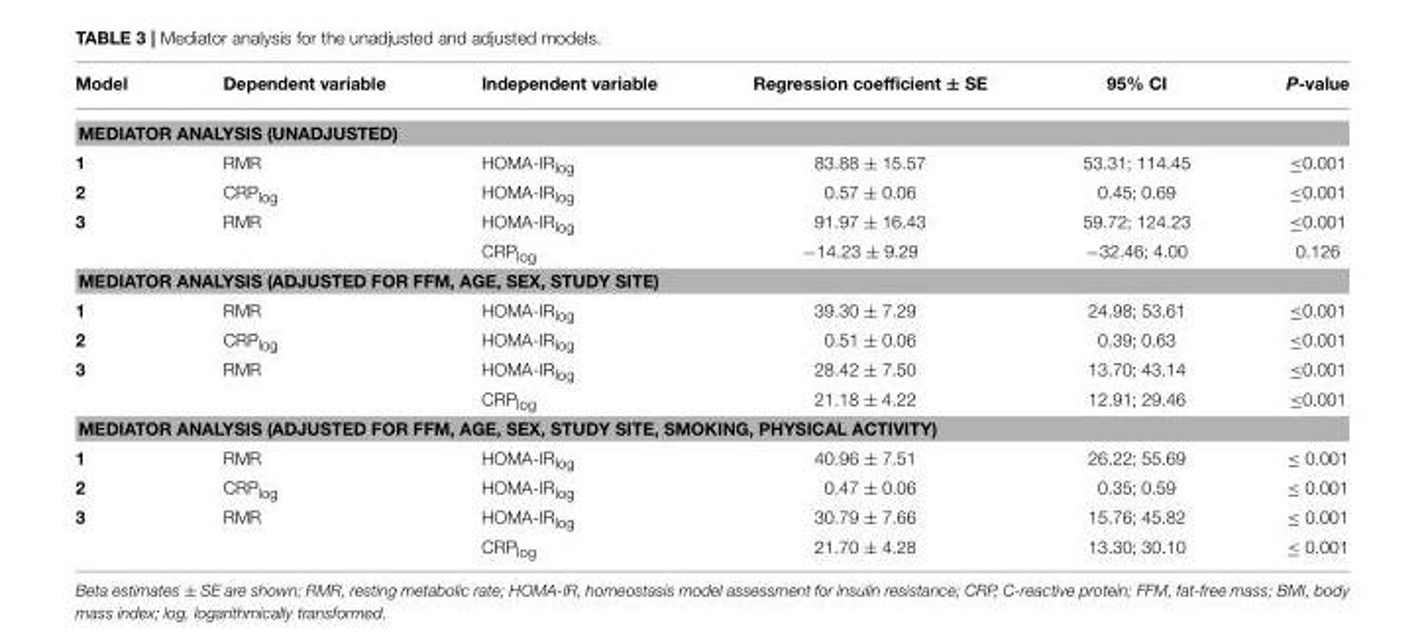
<table><thead><tr><td>Model</td><td>Dependent variable</td><td>Independent variable</td><td>Regression coefficient ± SE</td><td>95% CI</td><td>P-value</td></tr></thead><tbody><tr><td colspan="6">MEDIATOR ANALYSIS (UNADJUSTED)</td></tr><tr><td>1</td><td>RMR</td><td>HOMA-IR<sub>log</sub></td><td>83.88 ± 15.57</td><td>53.31; 114.45</td><td>≤0.001</td></tr><tr><td>2</td><td>CRP<sub>log</sub></td><td>HOMA-IR<sub>log</sub></td><td>0.57 ± 0.06</td><td>0.45; 0.69</td><td>≤0.001</td></tr><tr><td rowspan="2">3</td><td>RMR</td><td>HOMA-IR<sub>log</sub></td><td>91.97 ± 16.43</td><td>59.72; 124.23</td><td>≤0.001</td></tr><tr><td></td><td>CRP<sub>log</sub></td><td>−14.23 ± 9.29</td><td>−32.46; 4.00</td><td>0.126</td></tr><tr><td colspan="6">MEDIATOR ANALYSIS (ADJUSTED FOR FFM, AGE, SEX, STUDY SITE)</td></tr><tr><td>1</td><td>RMR</td><td>HOMA-IR<sub>log</sub></td><td>39.30 ± 7.29</td><td>24.98; 53.61</td><td>≤0.001</td></tr><tr><td>2</td><td>CRP<sub>log</sub></td><td>HOMA-IR<sub>log</sub></td><td>0.51 ± 0.06</td><td>0.39; 0.63</td><td>≤0.001</td></tr><tr><td rowspan="2">3</td><td>RMR</td><td>HOMA-IR<sub>log</sub></td><td>28.42 ± 7.50</td><td>13.70; 43.14</td><td>≤0.001</td></tr><tr><td></td><td>CRP<sub>log</sub></td><td>21.18 ± 4.22</td><td>12.91; 29.46</td><td>≤0.001</td></tr><tr><td colspan="6">MEDIATOR ANALYSIS (ADJUSTED FOR FFM, AGE, SEX, STUDY SITE, SMOKING, PHYSICAL ACTIVITY)</td></tr><tr><td>1</td><td>RMR</td><td>HOMA-IR<sub>log</sub></td><td>40.96 ± 7.51</td><td>26.22; 55.69</td><td>≤ 0.001</td></tr><tr><td>2</td><td>CRP<sub>log</sub></td><td>HOMA-IR<sub>log</sub></td><td>0.47 ± 0.06</td><td>0.35; 0.59</td><td>≤ 0.001</td></tr><tr><td rowspan="2">3</td><td>RMR</td><td>HOMA-IR<sub>log</sub></td><td>30.79 ± 7.66</td><td>15.76; 45.82</td><td>≤ 0.001</td></tr><tr><td></td><td>CRP<sub>log</sub></td><td>21.70 ± 4.28</td><td>13.30; 30.10</td><td>≤ 0.001</td></tr></tbody></table>